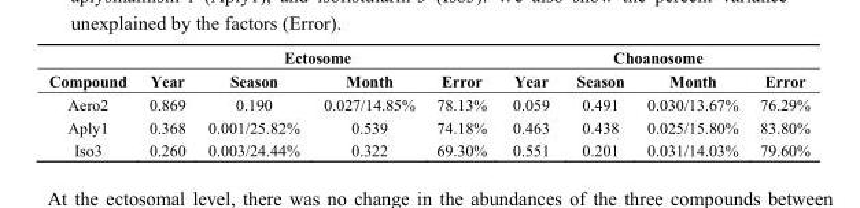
<table><thead><tr><td rowspan="2">Compound</td><td colspan="4">Ectosome</td><td colspan="4">Choanosome</td></tr><tr><td>Year</td><td>Season</td><td>Month</td><td>Error</td><td>Year</td><td>Season</td><td>Month</td><td>Error</td></tr></thead><tbody><tr><td>Aero2</td><td>0.869</td><td>0.190</td><td>0.027/14.85%</td><td>78.13%</td><td>0.059</td><td>0.491</td><td>0.030/13.67%</td><td>76.29%</td></tr><tr><td>Aply1</td><td>0.368</td><td>0.001/25.82%</td><td>0.539</td><td>74.18%</td><td>0.463</td><td>0.438</td><td>0.025/15.80%</td><td>83.80%</td></tr><tr><td>Iso3</td><td>0.260</td><td>0.003/24.44%</td><td>0.322</td><td>69.30%</td><td>0.551</td><td>0.201</td><td>0.031/14.03%</td><td>79.60%</td></tr></tbody></table>